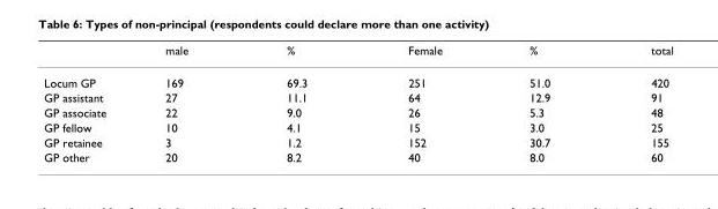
<table><thead><tr><td></td><td>male</td><td>%</td><td>Female</td><td>%</td><td>total</td></tr></thead><tbody><tr><td>Locum GP</td><td>169</td><td>69.3</td><td>251</td><td>51.0</td><td>420</td></tr><tr><td>GP assistant</td><td>27</td><td>11.1</td><td>64</td><td>12.9</td><td>91</td></tr><tr><td>GP associate</td><td>22</td><td>9.0</td><td>26</td><td>5.3</td><td>48</td></tr><tr><td>GP fellow</td><td>10</td><td>4.1</td><td>15</td><td>3.0</td><td>25</td></tr><tr><td>GP retainee</td><td>3</td><td>1.2</td><td>152</td><td>30.7</td><td>155</td></tr><tr><td>GP other</td><td>20</td><td>8.2</td><td>40</td><td>8.0</td><td>60</td></tr></tbody></table>